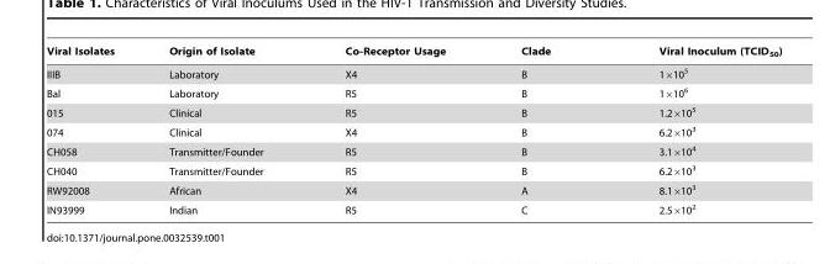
<table><thead><tr><td>Viral Isolates</td><td>Origin of Isolate</td><td>Co-Receptor Usage</td><td>Clade</td><td>Viral Inoculum (TCID<sub>50</sub>)</td></tr></thead><tbody><tr><td>IIIB</td><td>Laboratory</td><td>X4</td><td>B</td><td>1×10<sup>5</sup></td></tr><tr><td>Bal</td><td>Laboratory</td><td>R5</td><td>B</td><td>1×10<sup>6</sup></td></tr><tr><td>015</td><td>Clinical</td><td>R5</td><td>B</td><td>1.2×10<sup>5</sup></td></tr><tr><td>074</td><td>Clinical</td><td>X4</td><td>B</td><td>6.2×10<sup>3</sup></td></tr><tr><td>CH058</td><td>Transmitter/Founder</td><td>R5</td><td>B</td><td>3.1×10<sup>4</sup></td></tr><tr><td>CH040</td><td>Transmitter/Founder</td><td>R5</td><td>B</td><td>6.2×10<sup>3</sup></td></tr><tr><td>RW92008</td><td>African</td><td>X4</td><td>A</td><td>8.1×10<sup>3</sup></td></tr><tr><td>IN93999</td><td>Indian</td><td>R5</td><td>C</td><td>2.5×10<sup>2</sup></td></tr></tbody></table>